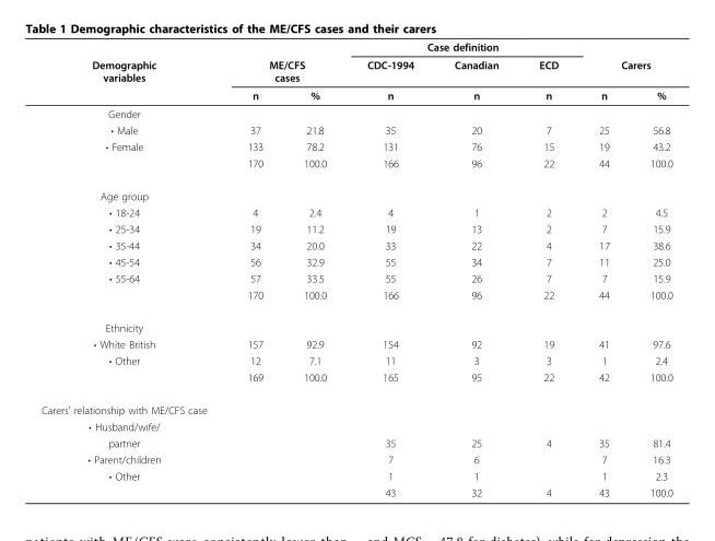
<table><thead><tr><td rowspan="3">Demographic variables</td><td></td><td></td><td colspan="3">Case definition</td><td></td><td></td></tr><tr><td colspan="2">ME/CFS cases</td><td rowspan="2">CDC-1994 n</td><td rowspan="2">Canadian n</td><td rowspan="2">ECD n</td><td colspan="2">Carers</td></tr><tr><td>n</td><td>%</td><td>n</td><td>%</td></tr></thead><tbody><tr><td colspan="8">Gender</td></tr><tr><td>• Male</td><td>37</td><td>21.8</td><td>35</td><td>20</td><td>7</td><td>25</td><td>56.8</td></tr><tr><td rowspan="2">• Female</td><td>133</td><td>78.2</td><td>131</td><td>76</td><td>15</td><td>19</td><td>43.2</td></tr><tr><td>170</td><td>100.0</td><td>166</td><td>96</td><td>22</td><td>44</td><td>100.0</td></tr><tr><td colspan="8">Age group</td></tr><tr><td>• 18-24</td><td>4</td><td>2.4</td><td>4</td><td>1</td><td>2</td><td>2</td><td>4.5</td></tr><tr><td>• 25-34</td><td>19</td><td>11.2</td><td>19</td><td>13</td><td>2</td><td>7</td><td>15.9</td></tr><tr><td>• 35-44</td><td>34</td><td>20.0</td><td>33</td><td>22</td><td>4</td><td>17</td><td>38.6</td></tr><tr><td>• 45-54</td><td>56</td><td>32.9</td><td>55</td><td>34</td><td>7</td><td>11</td><td>25.0</td></tr><tr><td rowspan="2">• 55-64</td><td>57</td><td>33.5</td><td>55</td><td>26</td><td>7</td><td>7</td><td>15.9</td></tr><tr><td>170</td><td>100.0</td><td>166</td><td>96</td><td>22</td><td>44</td><td>100.0</td></tr><tr><td colspan="8">Ethnicity</td></tr><tr><td>• White British</td><td>157</td><td>92.9</td><td>154</td><td>92</td><td>19</td><td>41</td><td>97.6</td></tr><tr><td rowspan="2">• Other</td><td>12</td><td>7.1</td><td>11</td><td>3</td><td>3</td><td>1</td><td>2.4</td></tr><tr><td>169</td><td>100.0</td><td>165</td><td>95</td><td>22</td><td>42</td><td>100.0</td></tr><tr><td colspan="8">Carers’ relationship with ME/CFS case</td></tr><tr><td colspan="8">• Husband/wife/</td></tr><tr><td>partner</td><td></td><td></td><td>35</td><td>25</td><td>4</td><td>35</td><td>81.4</td></tr><tr><td>• Parent/children</td><td></td><td></td><td>7</td><td>6</td><td></td><td>7</td><td>16.3</td></tr><tr><td rowspan="2">• Other</td><td></td><td></td><td>1</td><td>1</td><td></td><td>1</td><td>2.3</td></tr><tr><td></td><td></td><td>43</td><td>32</td><td>4</td><td>43</td><td>100.0</td></tr></tbody></table>